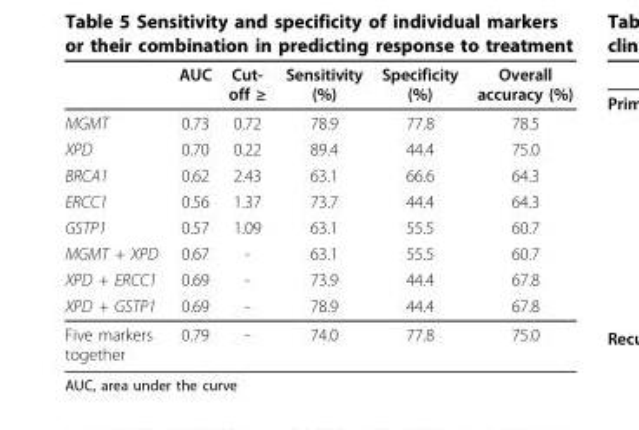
<table><thead><tr><td></td><td>AUC</td><td>Cut- off ≥</td><td>Sensitivity (%)</td><td>Specificity (%)</td><td>Overall accuracy (%)</td></tr></thead><tbody><tr><td>MGMT</td><td>0.73</td><td>0.72</td><td>78.9</td><td>77.8</td><td>78.5</td></tr><tr><td>XPD</td><td>0.70</td><td>0.22</td><td>89.4</td><td>44.4</td><td>75.0</td></tr><tr><td>BRCA1</td><td>0.62</td><td>2.43</td><td>63.1</td><td>66.6</td><td>64.3</td></tr><tr><td>ERCC1</td><td>0.56</td><td>1.37</td><td>73.7</td><td>44.4</td><td>64.3</td></tr><tr><td>GSTP1</td><td>0.57</td><td>1.09</td><td>63.1</td><td>55.5</td><td>60.7</td></tr><tr><td>MGMT + XPD</td><td>0.67</td><td>-</td><td>63.1</td><td>55.5</td><td>60.7</td></tr><tr><td>XPD + ERCC1</td><td>0.69</td><td>-</td><td>73.9</td><td>44.4</td><td>67.8</td></tr><tr><td>XPD + GSTP1</td><td>0.69</td><td>-</td><td>78.9</td><td>44.4</td><td>67.8</td></tr><tr><td>Five markers together</td><td>0.79</td><td>-</td><td>74.0</td><td>77.8</td><td>75.0</td></tr></tbody></table>